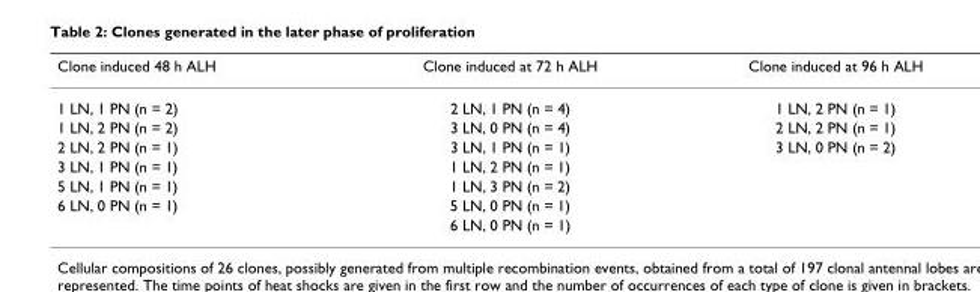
<table><thead><tr><td>Clone induced 48 h ALH</td><td>Clone induced at 72 h ALH</td><td>Clone induced at 96 h ALH</td></tr></thead><tbody><tr><td>1 LN, 1 PN (n = 2)</td><td>2 LN, 1 PN (n = 4)</td><td>1 LN, 2 PN (n = 1)</td></tr><tr><td>1 LN, 2 PN (n = 2)</td><td>3 LN, 0 PN (n = 4)</td><td>2 LN, 2 PN (n = 1)</td></tr><tr><td>2 LN, 2 PN (n = 1)</td><td>3 LN, 1 PN (n = 1)</td><td>3 LN, 0 PN (n = 2)</td></tr><tr><td>3 LN, 1 PN (n = 1)</td><td>1 LN, 2 PN (n = 1)</td><td></td></tr><tr><td>5 LN, 1 PN (n = 1)</td><td>1 LN, 3 PN (n = 2)</td><td></td></tr><tr><td rowspan="2">6 LN, 0 PN (n = 1)</td><td>5 LN, 0 PN (n = 1)</td><td></td></tr><tr><td>6 LN, 0 PN (n = 1)</td><td></td></tr></tbody></table>